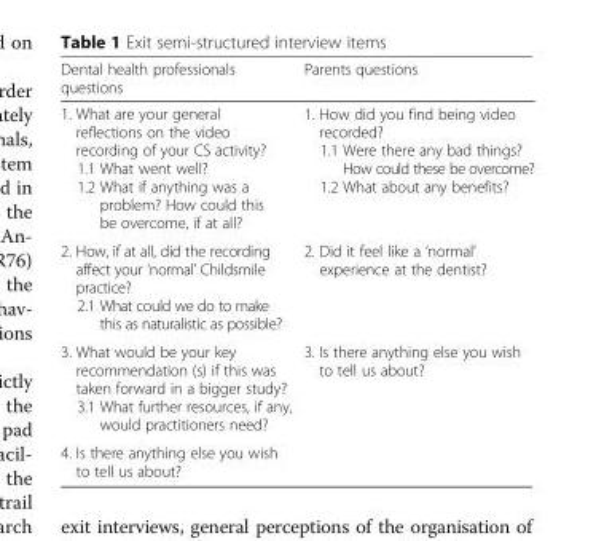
<table><thead><tr><td>Dental health professionals questions</td><td>Parents questions</td></tr></thead><tbody><tr><td>1. What are your general reflections on the video recording of your CS activity? 1.1 What went well? 1.2 What if anything was a problem? How could this be overcome, if at all?</td><td>1. How did you find being video recorded? 1.1 Were there any bad things? How could these be overcome? 1.2 What about any benefits?</td></tr><tr><td>2. How, if at all, did the recording affect your ‘normal’ Childsmile practice? 2.1 What could we do to make this as naturalistic as possible?</td><td>2. Did it feel like a ‘normal’ experience at the dentist?</td></tr><tr><td>3. What would be your key recommendation (s) if this was taken forward in a bigger study? 3.1 What further resources, if any, would practitioners need?</td><td>3. Is there anything else you wish to tell us about?</td></tr><tr><td>4. Is there anything else you wish to tell us about?</td><td></td></tr></tbody></table>